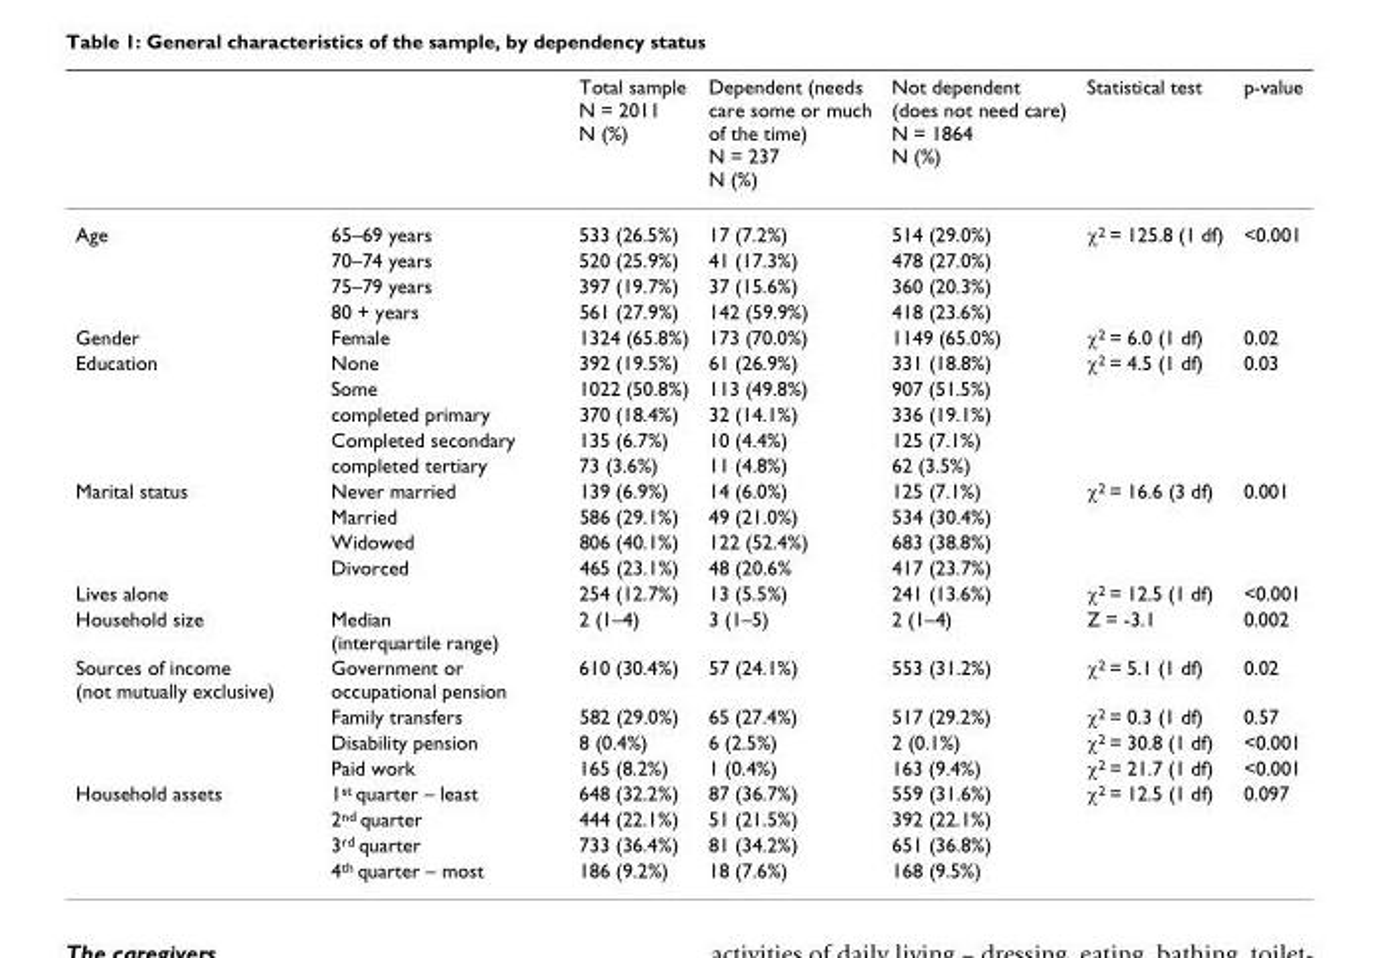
<table><thead><tr><td></td><td></td><td>Total sample N = 2011 N (%)</td><td>Dependent (needs care some or much of the time) N = 237 N (%)</td><td>Not dependent (does not need care) N = 1864 N (%)</td><td>Statistical test</td><td>p-value</td></tr></thead><tbody><tr><td rowspan="4">Age</td><td>65–69 years</td><td>533 (26.5%)</td><td>17 (7.2%)</td><td>514 (29.0%)</td><td>χ<sup>2</sup> = 125.8 (1 df)</td><td>&lt;0.001</td></tr><tr><td>70–74 years</td><td>520 (25.9%)</td><td>41 (17.3%)</td><td>478 (27.0%)</td><td></td><td></td></tr><tr><td>75–79 years</td><td>397 (19.7%)</td><td>37 (15.6%)</td><td>360 (20.3%)</td><td></td><td></td></tr><tr><td>80 + years</td><td>561 (27.9%)</td><td>142 (59.9%)</td><td>418 (23.6%)</td><td></td><td></td></tr><tr><td>Gender</td><td>Female</td><td>1324 (65.8%)</td><td>173 (70.0%)</td><td>1149 (65.0%)</td><td>χ<sup>2</sup> = 6.0 (1 df)</td><td>0.02</td></tr><tr><td rowspan="5">Education</td><td>None</td><td>392 (19.5%)</td><td>61 (26.9%)</td><td>331 (18.8%)</td><td>χ<sup>2</sup> = 4.5 (1 df)</td><td>0.03</td></tr><tr><td>Some</td><td>1022 (50.8%)</td><td>113 (49.8%)</td><td>907 (51.5%)</td><td></td><td></td></tr><tr><td>completed primary</td><td>370 (18.4%)</td><td>32 (14.1%)</td><td>336 (19.1%)</td><td></td><td></td></tr><tr><td>Completed secondary</td><td>135 (6.7%)</td><td>10 (4.4%)</td><td>125 (7.1%)</td><td></td><td></td></tr><tr><td>completed tertiary</td><td>73 (3.6%)</td><td>11 (4.8%)</td><td>62 (3.5%)</td><td></td><td></td></tr><tr><td rowspan="4">Marital status</td><td>Never married</td><td>139 (6.9%)</td><td>14 (6.0%)</td><td>125 (7.1%)</td><td>χ<sup>2</sup> = 16.6 (3 df)</td><td>0.001</td></tr><tr><td>Married</td><td>586 (29.1%)</td><td>49 (21.0%)</td><td>534 (30.4%)</td><td></td><td></td></tr><tr><td>Widowed</td><td>806 (40.1%)</td><td>122 (52.4%)</td><td>683 (38.8%)</td><td></td><td></td></tr><tr><td>Divorced</td><td>465 (23.1%)</td><td>48 (20.6%</td><td>417 (23.7%)</td><td></td><td></td></tr><tr><td>Lives alone</td><td></td><td>254 (12.7%)</td><td>13 (5.5%)</td><td>241 (13.6%)</td><td>χ<sup>2</sup> = 12.5 (1 df)</td><td>&lt;0.001</td></tr><tr><td>Household size</td><td>Median (interquartile range)</td><td>2 (1–4)</td><td>3 (1–5)</td><td>2 (1–4)</td><td>Z = -3.1</td><td>0.002</td></tr><tr><td rowspan="4">Sources of income (not mutually exclusive)</td><td>Government or occupational pension</td><td>610 (30.4%)</td><td>57 (24.1%)</td><td>553 (31.2%)</td><td>χ<sup>2</sup> = 5.1 (1 df)</td><td>0.02</td></tr><tr><td>Family transfers</td><td>582 (29.0%)</td><td>65 (27.4%)</td><td>517 (29.2%)</td><td>χ<sup>2</sup> = 0.3 (1 df)</td><td>0.57</td></tr><tr><td>Disability pension</td><td>8 (0.4%)</td><td>6 (2.5%)</td><td>2 (0.1%)</td><td>χ<sup>2</sup> = 30.8 (1 df)</td><td>&lt;0.001</td></tr><tr><td>Paid work</td><td>165 (8.2%)</td><td>1 (0.4%)</td><td>163 (9.4%)</td><td>χ<sup>2</sup> = 21.7 (1 df)</td><td>&lt;0.001</td></tr><tr><td rowspan="4">Household assets</td><td>1<sup>st</sup> quarter – least</td><td>648 (32.2%)</td><td>87 (36.7%)</td><td>559 (31.6%)</td><td>χ<sup>2</sup> = 12.5 (1 df)</td><td>0.097</td></tr><tr><td>2<sup>nd</sup> quarter</td><td>444 (22.1%)</td><td>51 (21.5%)</td><td>392 (22.1%)</td><td></td><td></td></tr><tr><td>3<sup>rd</sup> quarter</td><td>733 (36.4%)</td><td>81 (34.2%)</td><td>651 (36.8%)</td><td></td><td></td></tr><tr><td>4<sup>th</sup> quarter – most</td><td>186 (9.2%)</td><td>18 (7.6%)</td><td>168 (9.5%)</td><td></td><td></td></tr></tbody></table>